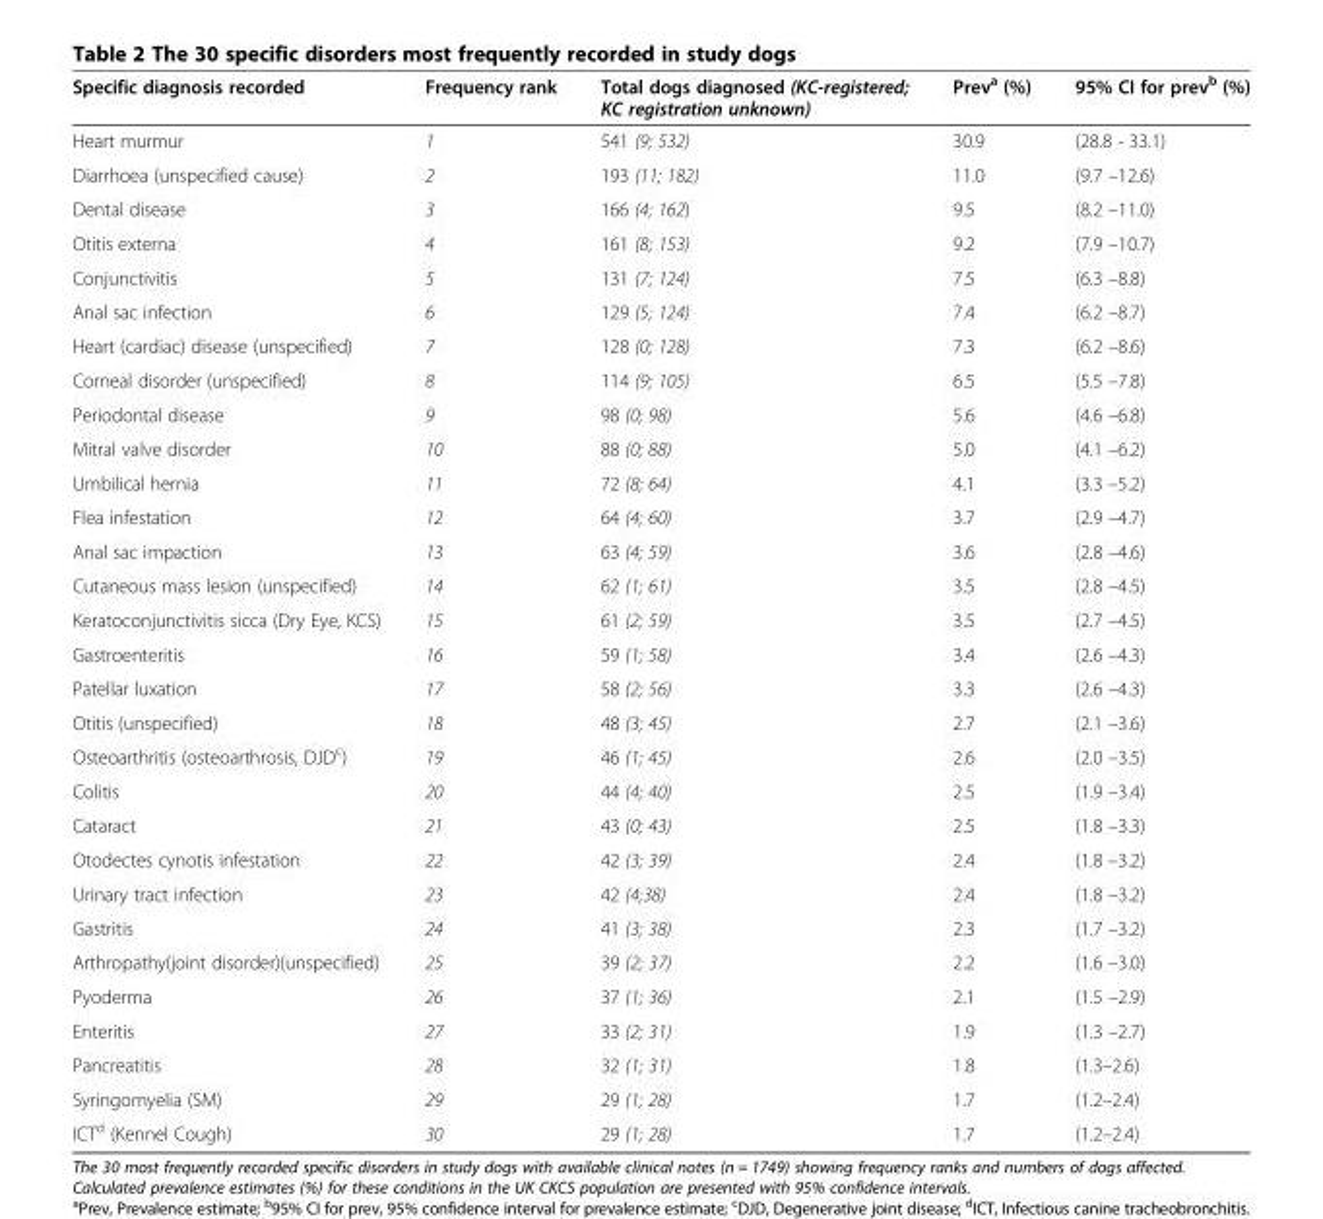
<table><thead><tr><td>Specific diagnosis recorded</td><td>Frequency rank</td><td>Total dogs diagnosed (KC-registered; KC registration unknown)</td><td>Prev<sup>a</sup> (%)</td><td>95% CI for prev<sup>b</sup> (%)</td></tr></thead><tbody><tr><td>Heart murmur</td><td>1</td><td>541 (9; 532)</td><td>30.9</td><td>(28.8 - 33.1)</td></tr><tr><td>Diarrhoea (unspecified cause)</td><td>2</td><td>193 (11; 182)</td><td>11.0</td><td>(9.7 –12.6)</td></tr><tr><td>Dental disease</td><td>3</td><td>166 (4; 162)</td><td>9.5</td><td>(8.2 –11.0)</td></tr><tr><td>Otitis externa</td><td>4</td><td>161 (8; 153)</td><td>9.2</td><td>(7.9 –10.7)</td></tr><tr><td>Conjunctivitis</td><td>5</td><td>131 (7; 124)</td><td>7.5</td><td>(6.3 –8.8)</td></tr><tr><td>Anal sac infection</td><td>6</td><td>129 (5; 124)</td><td>7.4</td><td>(6.2 –8.7)</td></tr><tr><td>Heart (cardiac) disease (unspecified)</td><td>7</td><td>128 (0; 128)</td><td>7.3</td><td>(6.2 –8.6)</td></tr><tr><td>Corneal disorder (unspecified)</td><td>8</td><td>114 (9; 105)</td><td>6.5</td><td>(5.5 –7.8)</td></tr><tr><td>Periodontal disease</td><td>9</td><td>98 (0; 98)</td><td>5.6</td><td>(4.6 –6.8)</td></tr><tr><td>Mitral valve disorder</td><td>10</td><td>88 (0; 88)</td><td>5.0</td><td>(4.1 –6.2)</td></tr><tr><td>Umbilical hernia</td><td>11</td><td>72 (8; 64)</td><td>4.1</td><td>(3.3 –5.2)</td></tr><tr><td>Flea infestation</td><td>12</td><td>64 (4; 60)</td><td>3.7</td><td>(2.9 –4.7)</td></tr><tr><td>Anal sac impaction</td><td>13</td><td>63 (4; 59)</td><td>3.6</td><td>(2.8 –4.6)</td></tr><tr><td>Cutaneous mass lesion (unspecified)</td><td>14</td><td>62 (1; 61)</td><td>3.5</td><td>(2.8 –4.5)</td></tr><tr><td>Keratoconjunctivitis sicca (Dry Eye, KCS)</td><td>15</td><td>61 (2; 59)</td><td>3.5</td><td>(2.7 –4.5)</td></tr><tr><td>Gastroenteritis</td><td>16</td><td>59 (1; 58)</td><td>3.4</td><td>(2.6 –4.3)</td></tr><tr><td>Patellar luxation</td><td>17</td><td>58 (2; 56)</td><td>3.3</td><td>(2.6 –4.3)</td></tr><tr><td>Otitis (unspecified)</td><td>18</td><td>48 (3; 45)</td><td>2.7</td><td>(2.1 –3.6)</td></tr><tr><td>Osteoarthritis (osteoarthrosis, DJD<sup>c</sup>)</td><td>19</td><td>46 (1; 45)</td><td>2.6</td><td>(2.0 –3.5)</td></tr><tr><td>Colitis</td><td>20</td><td>44 (4; 40)</td><td>2.5</td><td>(1.9 –3.4)</td></tr><tr><td>Cataract</td><td>21</td><td>43 (0; 43)</td><td>2.5</td><td>(1.8 –3.3)</td></tr><tr><td>Otodectes cynotis infestation</td><td>22</td><td>42 (3; 39)</td><td>2.4</td><td>(1.8 –3.2)</td></tr><tr><td>Urinary tract infection</td><td>23</td><td>42 (4;38)</td><td>2.4</td><td>(1.8 –3.2)</td></tr><tr><td>Gastritis</td><td>24</td><td>41 (3; 38)</td><td>2.3</td><td>(1.7 –3.2)</td></tr><tr><td>Arthropathy(joint disorder)(unspecified)</td><td>25</td><td>39 (2; 37)</td><td>2.2</td><td>(1.6 –3.0)</td></tr><tr><td>Pyoderma</td><td>26</td><td>37 (1; 36)</td><td>2.1</td><td>(1.5 –2.9)</td></tr><tr><td>Enteritis</td><td>27</td><td>33 (2; 31)</td><td>1.9</td><td>(1.3 –2.7)</td></tr><tr><td>Pancreatitis</td><td>28</td><td>32 (1; 31)</td><td>1.8</td><td>(1.3–2.6)</td></tr><tr><td>Syringomyelia (SM)</td><td>29</td><td>29 (1; 28)</td><td>1.7</td><td>(1.2–2.4)</td></tr><tr><td>ICT<sup>d</sup> (Kennel Cough)</td><td>30</td><td>29 (1; 28)</td><td>1.7</td><td>(1.2–2.4)</td></tr></tbody></table>